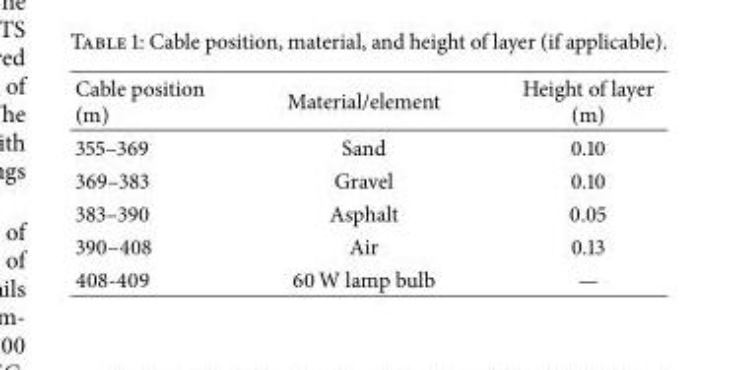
<table><thead><tr><td>Cable position (m)</td><td>Material/element</td><td>Height of layer (m)</td></tr></thead><tbody><tr><td>355–369</td><td>Sand</td><td>0.10</td></tr><tr><td>369–383</td><td>Gravel</td><td>0.10</td></tr><tr><td>383–390</td><td>Asphalt</td><td>0.05</td></tr><tr><td>390–408</td><td>Air</td><td>0.13</td></tr><tr><td>408-409</td><td>60 W lamp bulb</td><td>—</td></tr></tbody></table>